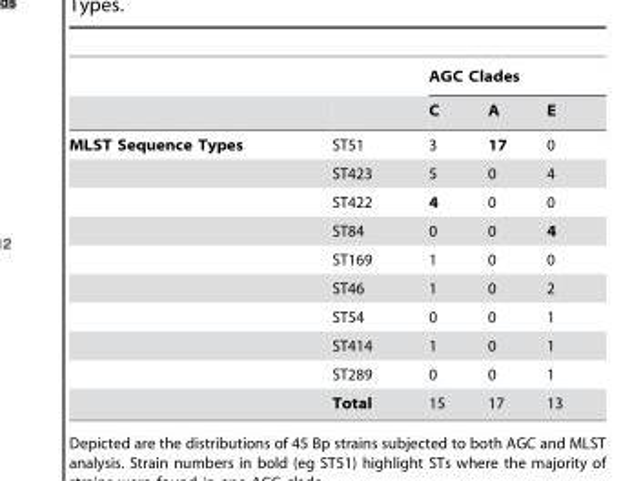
<table><thead><tr><td rowspan="2"></td><td rowspan="2"></td><td colspan="3">AGC Clades</td></tr><tr><td>C</td><td>A</td><td>E</td></tr></thead><tbody><tr><td rowspan="10">MLST Sequence Types</td><td>ST51</td><td>3</td><td>17</td><td>0</td></tr><tr><td>ST423</td><td>5</td><td>0</td><td>4</td></tr><tr><td>ST422</td><td>4</td><td>0</td><td>0</td></tr><tr><td>ST84</td><td>0</td><td>0</td><td>4</td></tr><tr><td>ST169</td><td>1</td><td>0</td><td>0</td></tr><tr><td>ST46</td><td>1</td><td>0</td><td>2</td></tr><tr><td>ST54</td><td>0</td><td>0</td><td>1</td></tr><tr><td>ST414</td><td>1</td><td>0</td><td>1</td></tr><tr><td>ST289</td><td>0</td><td>0</td><td>1</td></tr><tr><td>Total</td><td>15</td><td>17</td><td>13</td></tr></tbody></table>